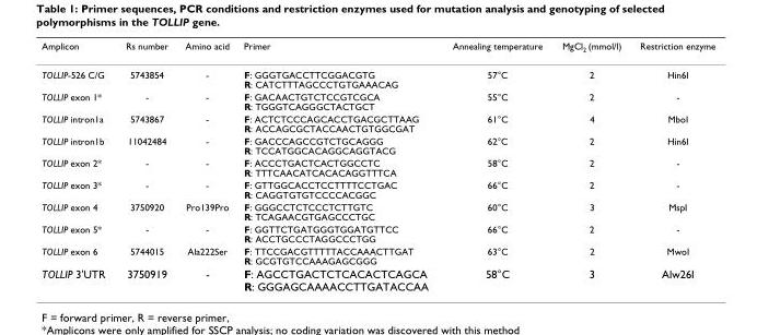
<table><thead><tr><td>Amplicon</td><td>Rs number</td><td>Amino acid</td><td>Primer</td><td>Annealing temperature</td><td>MgCl2 (mmol/l)</td><td>Restriction enzyme</td></tr></thead><tbody><tr><td>TOLLIP-526 C/G</td><td>5743854</td><td>-</td><td>F: GGGTGACCTTCGGACGTG R: CATCTTTAGCCCTGTGAAACAG</td><td>57°C</td><td>2</td><td>Hin6I</td></tr><tr><td>TOLLIP exon 1*</td><td>-</td><td>-</td><td>F: GACAACTGTCTCCGTCGCA R: TGGGTCAGGGCTACTGCT</td><td>55°C</td><td>2</td><td>-</td></tr><tr><td>TOLLIP intron1a</td><td>5743867</td><td>-</td><td>F: ACTCTCCCAGCACCTGACGCTTAAG R: ACCAGCGCTACCAACTGTGGCGAT</td><td>61°C</td><td>4</td><td>MboI</td></tr><tr><td>TOLLIP intron1b</td><td>11042484</td><td>-</td><td>F: GACCCAGCCGTCTGCAGGG R: TCCATGGCACAGGCAGGTACG</td><td>62°C</td><td>2</td><td>Hin6I</td></tr><tr><td>TOLLIP exon 2*</td><td>-</td><td>-</td><td>F: ACCCTGACTCACTGGCCTC R: TTTCAACATCACACAGGTTTCA</td><td>58°C</td><td>2</td><td>-</td></tr><tr><td>TOLLIP exon 3*</td><td>-</td><td>-</td><td>F: GTTGGCACCTCCTTTTCCTGAC R: CAGGTGTGTCCCCACGGC</td><td>66°C</td><td>2</td><td>-</td></tr><tr><td>TOLLIP exon 4</td><td>3750920</td><td>Pro139Pro</td><td>F: GGGCCTCTCCCTCTTGTC R: TCAGAACGTGAGCCCTGC</td><td>60°C</td><td>3</td><td>MspI</td></tr><tr><td>TOLLIP exon 5*</td><td>-</td><td>-</td><td>F: GGTTCTGATGGGTGGATGTTCC R: ACCTGCCCTAGGCCCTGG</td><td>66°C</td><td>2</td><td>-</td></tr><tr><td>TOLLIP exon 6</td><td>5744015</td><td>Ala222Ser</td><td>F: TTCCGACGTTTTTACCAAACTTGAT R: GCGTGTCCAAAGAGCGGG</td><td>63°C</td><td>2</td><td>MwoI</td></tr><tr><td>TOLLIP 3&#x27;UTR</td><td>3750919</td><td>-</td><td>F: AGCCTGACTCTCACACTCAGCA R: GGGAGCAAAACCTTGATACCAA</td><td>58°C</td><td>3</td><td>Alw26I</td></tr></tbody></table>